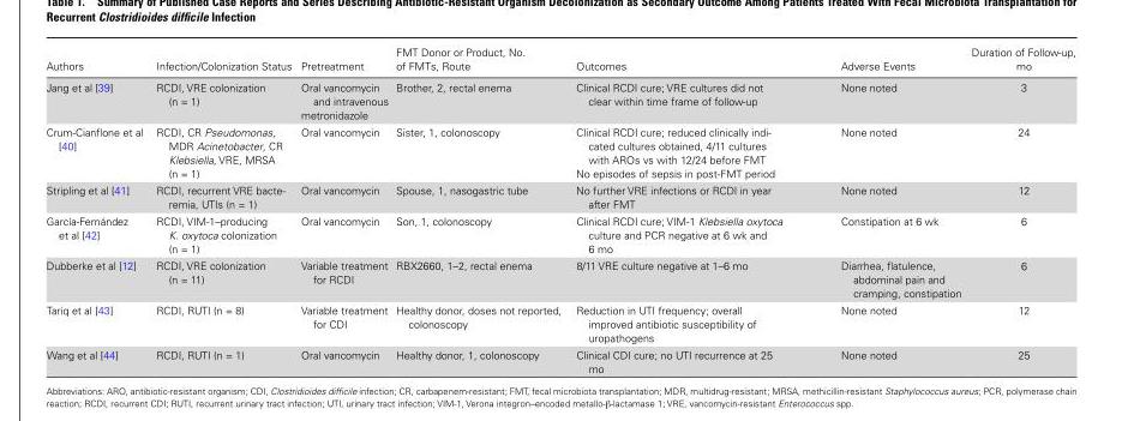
<table><thead><tr><td>Authors</td><td>Infection/Colonization Status</td><td>Pretreatment</td><td>FMT Donor or Product, No. of FMTs, Route</td><td>Outcomes</td><td>Adverse Events</td><td>Duration of Follow-up, mo</td></tr></thead><tbody><tr><td>Jang et al [39]</td><td>RCDI, VRE colonization (n = 1)</td><td>Oral vancomycin and intravenous metronidazole</td><td>Brother, 2, rectal enema</td><td>Clinical RCDI cure; VRE cultures did not clear within time frame of follow-up</td><td>None noted</td><td>3</td></tr><tr><td>Crum-Cianflone et al [40]</td><td>RCDI, CR Pseudomonas, MDR Acinetobacter, CR Klebsiella, VRE, MRSA (n = 1)</td><td>Oral vancomycin</td><td>Sister, 1, colonoscopy</td><td>Clinical RCDI cure; reduced clinically indi- cated cultures obtained, 4/11 cultures with AROs vs with 12/24 before FMT No episodes of sepsis in post-FMT period</td><td>None noted</td><td>24</td></tr><tr><td>Stripling et al [41]</td><td>RCDI, recurrent VRE bacte- remia, UTIs (n = 1)</td><td>Oral vancomycin</td><td>Spouse, 1, nasogastric tube</td><td>No further VRE infections or RCDI in year after FMT</td><td>None noted</td><td>12</td></tr><tr><td>García-Fernández et al [42]</td><td>RCDI, VIM-1–producing K. oxytoca colonization (n = 1)</td><td>Oral vancomycin</td><td>Son, 1, colonoscopy</td><td>Clinical RCDI cure; VIM-1 Klebsiella oxytoca culture and PCR negative at 6 wk and 6 mo</td><td>Constipation at 6 wk</td><td>6</td></tr><tr><td>Dubberke et al [12]</td><td>RCDI, VRE colonization (n = 11)</td><td>Variable treatment for RCDI</td><td>RBX2660, 1–2, rectal enema</td><td>8/11 VRE culture negative at 1–6 mo</td><td>Diarrhea, flatulence, abdominal pain and cramping, constipation</td><td>6</td></tr><tr><td>Tariq et al [43]</td><td>RCDI, RUTI (n = 8)</td><td>Variable treatment for CDI</td><td>Healthy donor, doses not reported, colonoscopy</td><td>Reduction in UTI frequency; overall improved antibiotic susceptibility of uropathogens</td><td>None noted</td><td>12</td></tr><tr><td>Wang et al [44]</td><td>RCDI, RUTI (n = 1)</td><td>Oral vancomycin</td><td>Healthy donor, 1, colonoscopy</td><td>Clinical CDI cure; no UTI recurrence at 25 mo</td><td>None noted</td><td>25</td></tr></tbody></table>